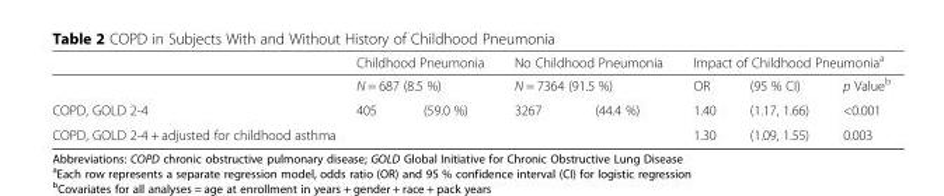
<table><thead><tr><td rowspan="3">COPD, GOLD 2-4</td><td rowspan="2" colspan="2">Childhood Pneumonia N = 687 (8.5 %)</td><td rowspan="2" colspan="2">No Childhood Pneumonia N = 7364 (91.5 %)</td><td colspan="3">Impact of Childhood Pneumonia<sup>a</sup></td></tr><tr><td rowspan="2">OR 1.40</td><td rowspan="2">(95 % CI) (1.17, 1.66)</td><td rowspan="2">p Value<sup>b</sup> &lt;0.001</td></tr><tr><td>405</td><td>(59.0 %)</td><td>3267</td><td>(44.4 %)</td></tr></thead><tbody><tr><td>COPD, GOLD 2-4 + adjusted for childhood asthma</td><td></td><td></td><td></td><td></td><td>1.30</td><td>(1.09, 1.55)</td><td>0.003</td></tr></tbody></table>